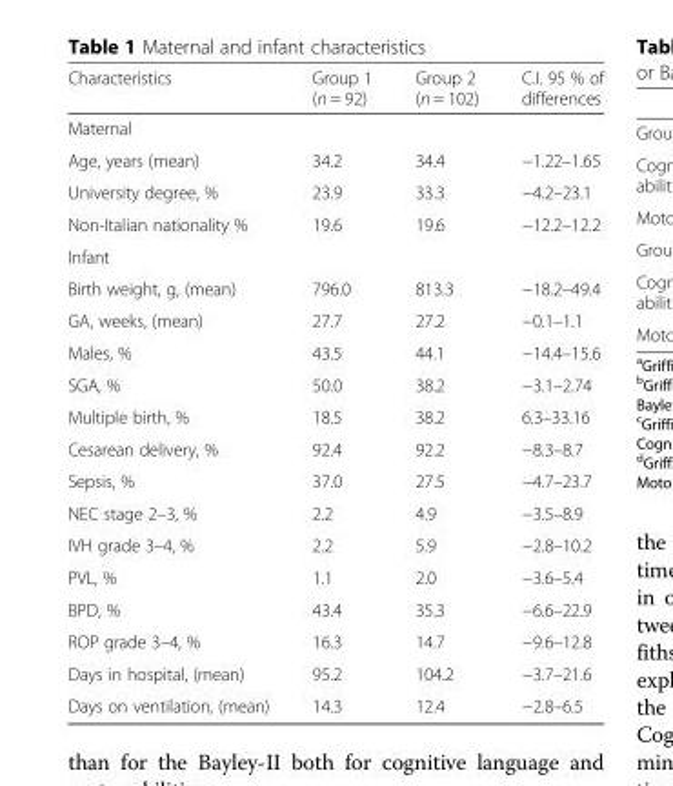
<table><thead><tr><td>Characteristics</td><td>Group 1 (n = 92)</td><td>Group 2 (n = 102)</td><td>C.I. 95 % of differences</td></tr></thead><tbody><tr><td colspan="4">Maternal</td></tr><tr><td>Age, years (mean)</td><td>34.2</td><td>34.4</td><td>−1.22–1.65</td></tr><tr><td>University degree, %</td><td>23.9</td><td>33.3</td><td>−4.2–23.1</td></tr><tr><td>Non-Italian nationality %</td><td>19.6</td><td>19.6</td><td>−12.2–12.2</td></tr><tr><td colspan="4">Infant</td></tr><tr><td>Birth weight, g, (mean)</td><td>796.0</td><td>813.3</td><td>−18.2–49.4</td></tr><tr><td>GA, weeks, (mean)</td><td>27.7</td><td>27.2</td><td>−0.1–1.1</td></tr><tr><td>Males, %</td><td>43.5</td><td>44.1</td><td>−14.4–15.6</td></tr><tr><td>SGA, %</td><td>50.0</td><td>38.2</td><td>−3.1–2.74</td></tr><tr><td>Multiple birth, %</td><td>18.5</td><td>38.2</td><td>6.3–33.16</td></tr><tr><td>Cesarean delivery, %</td><td>92.4</td><td>92.2</td><td>−8.3–8.7</td></tr><tr><td>Sepsis, %</td><td>37.0</td><td>27.5</td><td>−4.7–23.7</td></tr><tr><td>NEC stage 2–3, %</td><td>2.2</td><td>4.9</td><td>−3.5–8.9</td></tr><tr><td>IVH grade 3–4, %</td><td>2.2</td><td>5.9</td><td>−2.8–10.2</td></tr><tr><td>PVL, %</td><td>1.1</td><td>2.0</td><td>−3.6–5.4</td></tr><tr><td>BPD, %</td><td>43.4</td><td>35.3</td><td>−6.6–22.9</td></tr><tr><td>ROP grade 3–4, %</td><td>16.3</td><td>14.7</td><td>−9.6–12.8</td></tr><tr><td>Days in hospital, (mean)</td><td>95.2</td><td>104.2</td><td>−3.7–21.6</td></tr><tr><td>Days on ventilation, (mean)</td><td>14.3</td><td>12.4</td><td>−2.8–6.5</td></tr></tbody></table>